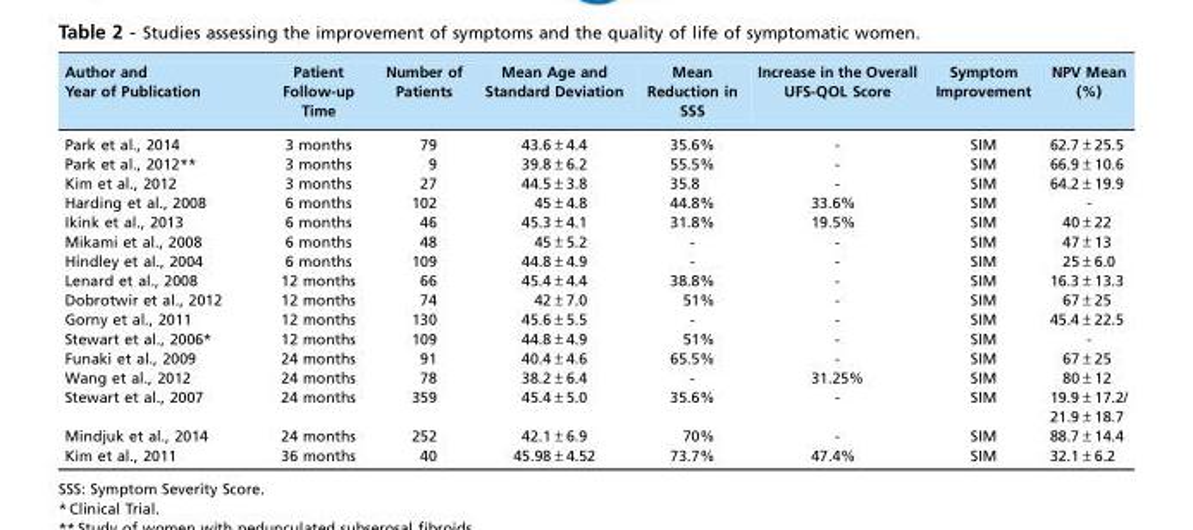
<table><thead><tr><td>Author and Year of Publication</td><td>Patient Follow-up Time</td><td>Number of Patients</td><td>Mean Age and Standard Deviation</td><td>Mean Reduction in SSS</td><td>Increase in the Overall UFS-QOL Score</td><td>Symptom Improvement</td><td>NPV Mean (%)</td></tr></thead><tbody><tr><td>Park et al., 2014</td><td>3 months</td><td>79</td><td>43.6±4.4</td><td>35.6%</td><td>-</td><td>SIM</td><td>62.7±25.5</td></tr><tr><td>Park et al., 2012**</td><td>3 months</td><td>9</td><td>39.8±6.2</td><td>55.5%</td><td>-</td><td>SIM</td><td>66.9±10.6</td></tr><tr><td>Kim et al., 2012</td><td>3 months</td><td>27</td><td>44.5±3.8</td><td>35.8</td><td>-</td><td>SIM</td><td>64.2±19.9</td></tr><tr><td>Harding et al., 2008</td><td>6 months</td><td>102</td><td>45±4.8</td><td>44.8%</td><td>33.6%</td><td>SIM</td><td>-</td></tr><tr><td>Ikink et al., 2013</td><td>6 months</td><td>46</td><td>45.3±4.1</td><td>31.8%</td><td>19.5%</td><td>SIM</td><td>40±22</td></tr><tr><td>Mikami et al., 2008</td><td>6 months</td><td>48</td><td>45±5.2</td><td>-</td><td>-</td><td>SIM</td><td>47±13</td></tr><tr><td>Hindley et al., 2004</td><td>6 months</td><td>109</td><td>44.8±4.9</td><td>-</td><td>-</td><td>SIM</td><td>25±6.0</td></tr><tr><td>Lenard et al., 2008</td><td>12 months</td><td>66</td><td>45.4±4.4</td><td>38.8%</td><td>-</td><td>SIM</td><td>16.3±13.3</td></tr><tr><td>Dobrotwir et al., 2012</td><td>12 months</td><td>74</td><td>42±7.0</td><td>51%</td><td>-</td><td>SIM</td><td>67±25</td></tr><tr><td>Gorny et al., 2011</td><td>12 months</td><td>130</td><td>45.6±5.5</td><td>-</td><td>-</td><td>SIM</td><td>45.4±22.5</td></tr><tr><td>Stewart et al., 2006*</td><td>12 months</td><td>109</td><td>44.8±4.9</td><td>51%</td><td>-</td><td>SIM</td><td>-</td></tr><tr><td>Funaki et al., 2009</td><td>24 months</td><td>91</td><td>40.4±4.6</td><td>65.5%</td><td>-</td><td>SIM</td><td>67±25</td></tr><tr><td>Wang et al., 2012</td><td>24 months</td><td>78</td><td>38.2±6.4</td><td>-</td><td>31.25%</td><td>SIM</td><td>80±12</td></tr><tr><td>Stewart et al., 2007</td><td>24 months</td><td>359</td><td>45.4±5.0</td><td>35.6%</td><td>-</td><td>SIM</td><td>19.9±17.2/ 21.9±18.7</td></tr><tr><td>Mindjuk et al., 2014</td><td>24 months</td><td>252</td><td>42.1±6.9</td><td>70%</td><td>-</td><td>SIM</td><td>88.7±14.4</td></tr><tr><td>Kim et al., 2011</td><td>36 months</td><td>40</td><td>45.98±4.52</td><td>73.7%</td><td>47.4%</td><td>SIM</td><td>32.1±6.2</td></tr></tbody></table>